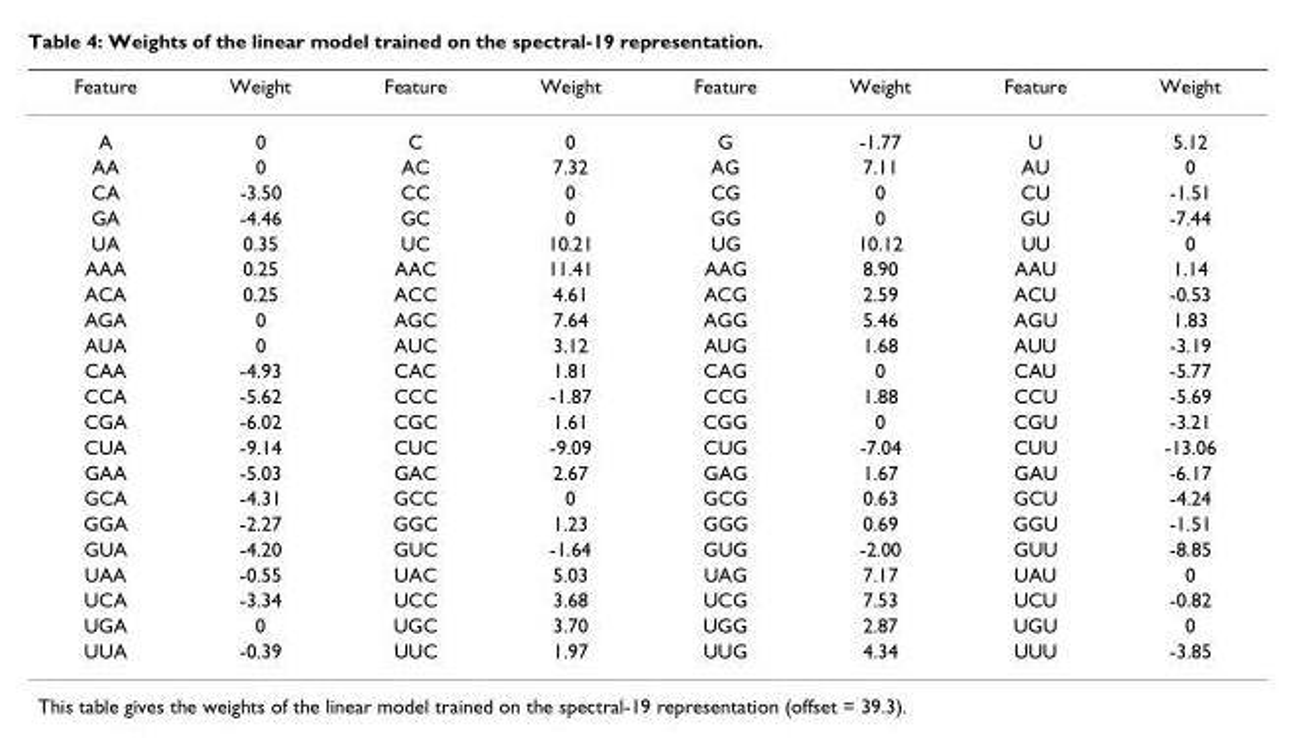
<table><thead><tr><td>Feature</td><td>Weight</td><td>Feature</td><td>Weight</td><td>Feature</td><td>Weight</td><td>Feature</td><td>Weight</td></tr></thead><tbody><tr><td>A</td><td>0</td><td>C</td><td>0</td><td>G</td><td>-1.77</td><td>U</td><td>5.12</td></tr><tr><td>AA</td><td>0</td><td>AC</td><td>7.32</td><td>AG</td><td>7.11</td><td>AU</td><td>0</td></tr><tr><td>CA</td><td>-3.50</td><td>CC</td><td>0</td><td>CG</td><td>0</td><td>CU</td><td>-1.51</td></tr><tr><td>GA</td><td>-4.46</td><td>GC</td><td>0</td><td>GG</td><td>0</td><td>GU</td><td>-7.44</td></tr><tr><td>UA</td><td>0.35</td><td>UC</td><td>10.21</td><td>UG</td><td>10.12</td><td>UU</td><td>0</td></tr><tr><td>AAA</td><td>0.25</td><td>AAC</td><td>11.41</td><td>AAG</td><td>8.90</td><td>AAU</td><td>1.14</td></tr><tr><td>ACA</td><td>0.25</td><td>ACC</td><td>4.61</td><td>ACG</td><td>2.59</td><td>ACU</td><td>-0.53</td></tr><tr><td>AGA</td><td>0</td><td>AGC</td><td>7.64</td><td>AGG</td><td>5.46</td><td>AGU</td><td>1.83</td></tr><tr><td>AUA</td><td>0</td><td>AUC</td><td>3.12</td><td>AUG</td><td>1.68</td><td>AUU</td><td>-3.19</td></tr><tr><td>CAA</td><td>-4.93</td><td>CAC</td><td>1.81</td><td>CAG</td><td>0</td><td>CAU</td><td>-5.77</td></tr><tr><td>CCA</td><td>-5.62</td><td>CCC</td><td>-1.87</td><td>CCG</td><td>1.88</td><td>CCU</td><td>-5.69</td></tr><tr><td>CGA</td><td>-6.02</td><td>CGC</td><td>1.61</td><td>CGG</td><td>0</td><td>CGU</td><td>-3.21</td></tr><tr><td>CUA</td><td>-9.14</td><td>CUC</td><td>-9.09</td><td>CUG</td><td>-7.04</td><td>CUU</td><td>-13.06</td></tr><tr><td>GAA</td><td>-5.03</td><td>GAC</td><td>2.67</td><td>GAG</td><td>1.67</td><td>GAU</td><td>-6.17</td></tr><tr><td>GCA</td><td>-4.31</td><td>GCC</td><td>0</td><td>GCG</td><td>0.63</td><td>GCU</td><td>-4.24</td></tr><tr><td>GGA</td><td>-2.27</td><td>GGC</td><td>1.23</td><td>GGG</td><td>0.69</td><td>GGU</td><td>-1.51</td></tr><tr><td>GUA</td><td>-4.20</td><td>GUC</td><td>-1.64</td><td>GUG</td><td>-2.00</td><td>GUU</td><td>-8.85</td></tr><tr><td>UAA</td><td>-0.55</td><td>UAC</td><td>5.03</td><td>UAG</td><td>7.17</td><td>UAU</td><td>0</td></tr><tr><td>UCA</td><td>-3.34</td><td>UCC</td><td>3.68</td><td>UCG</td><td>7.53</td><td>UCU</td><td>-0.82</td></tr><tr><td>UGA</td><td>0</td><td>UGC</td><td>3.70</td><td>UGG</td><td>2.87</td><td>UGU</td><td>0</td></tr><tr><td>UUA</td><td>-0.39</td><td>UUC</td><td>1.97</td><td>UUG</td><td>4.34</td><td>UUU</td><td>-3.85</td></tr></tbody></table>